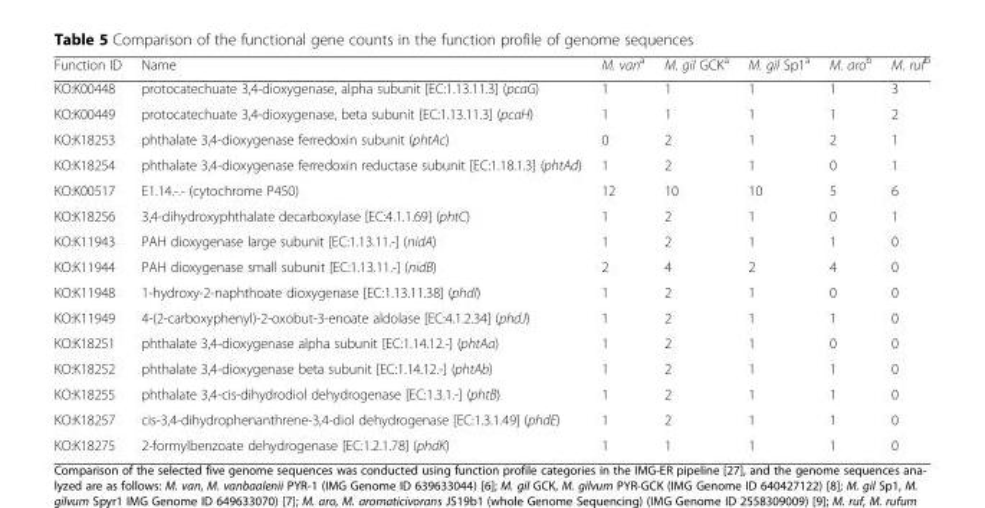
<table><thead><tr><td>Function ID</td><td>Name</td><td>M. van<sup>a</sup></td><td>M. gil GCK<sup>a</sup></td><td>M. gil Sp1<sup>a</sup></td><td>M. aro<sup>b</sup></td><td>M. ruf<sup>b</sup></td></tr></thead><tbody><tr><td>KO:K00448</td><td>protocatechuate 3,4-dioxygenase, alpha subunit [EC:1.13.11.3] (pcaG)</td><td>1</td><td>1</td><td>1</td><td>1</td><td>3</td></tr><tr><td>KO:K00449</td><td>protocatechuate 3,4-dioxygenase, beta subunit [EC:1.13.11.3] (pcaH)</td><td>1</td><td>1</td><td>1</td><td>1</td><td>2</td></tr><tr><td>KO:K18253</td><td>phthalate 3,4-dioxygenase ferredoxin subunit (phtAc)</td><td>0</td><td>2</td><td>1</td><td>2</td><td>1</td></tr><tr><td>KO:K18254</td><td>phthalate 3,4-dioxygenase ferredoxin reductase subunit [EC:1.18.1.3] (phtAd)</td><td>1</td><td>2</td><td>1</td><td>0</td><td>1</td></tr><tr><td>KO:K00517</td><td>E1.14.-.- (cytochrome P450)</td><td>12</td><td>10</td><td>10</td><td>5</td><td>6</td></tr><tr><td>KO:K18256</td><td>3,4-dihydroxyphthalate decarboxylase [EC:4.1.1.69] (phtC)</td><td>1</td><td>2</td><td>1</td><td>0</td><td>1</td></tr><tr><td>KO:K11943</td><td>PAH dioxygenase large subunit [EC:1.13.11.-] (nidA)</td><td>1</td><td>2</td><td>1</td><td>1</td><td>0</td></tr><tr><td>KO:K11944</td><td>PAH dioxygenase small subunit [EC:1.13.11.-] (nidB)</td><td>2</td><td>4</td><td>2</td><td>4</td><td>0</td></tr><tr><td>KO:K11948</td><td>1-hydroxy-2-naphthoate dioxygenase [EC:1.13.11.38] (phdI)</td><td>1</td><td>2</td><td>1</td><td>0</td><td>0</td></tr><tr><td>KO:K11949</td><td>4-(2-carboxyphenyl)-2-oxobut-3-enoate aldolase [EC:4.1.2.34] (phdJ)</td><td>1</td><td>2</td><td>1</td><td>1</td><td>0</td></tr><tr><td>KO:K18251</td><td>phthalate 3,4-dioxygenase alpha subunit [EC:1.14.12.-] (phtAa)</td><td>1</td><td>2</td><td>1</td><td>0</td><td>0</td></tr><tr><td>KO:K18252</td><td>phthalate 3,4-dioxygenase beta subunit [EC:1.14.12.-] (phtAb)</td><td>1</td><td>2</td><td>1</td><td>1</td><td>0</td></tr><tr><td>KO:K18255</td><td>phthalate 3,4-cis-dihydrodiol dehydrogenase [EC:1.3.1.-] (phtB)</td><td>1</td><td>2</td><td>1</td><td>1</td><td>0</td></tr><tr><td>KO:K18257</td><td>cis-3,4-dihydrophenanthrene-3,4-diol dehydrogenase [EC:1.3.1.49] (phdE)</td><td>1</td><td>2</td><td>1</td><td>1</td><td>0</td></tr><tr><td>KO:K18275</td><td>2-formylbenzoate dehydrogenase [EC:1.2.1.78] (phdK)</td><td>1</td><td>1</td><td>1</td><td>1</td><td>0</td></tr></tbody></table>